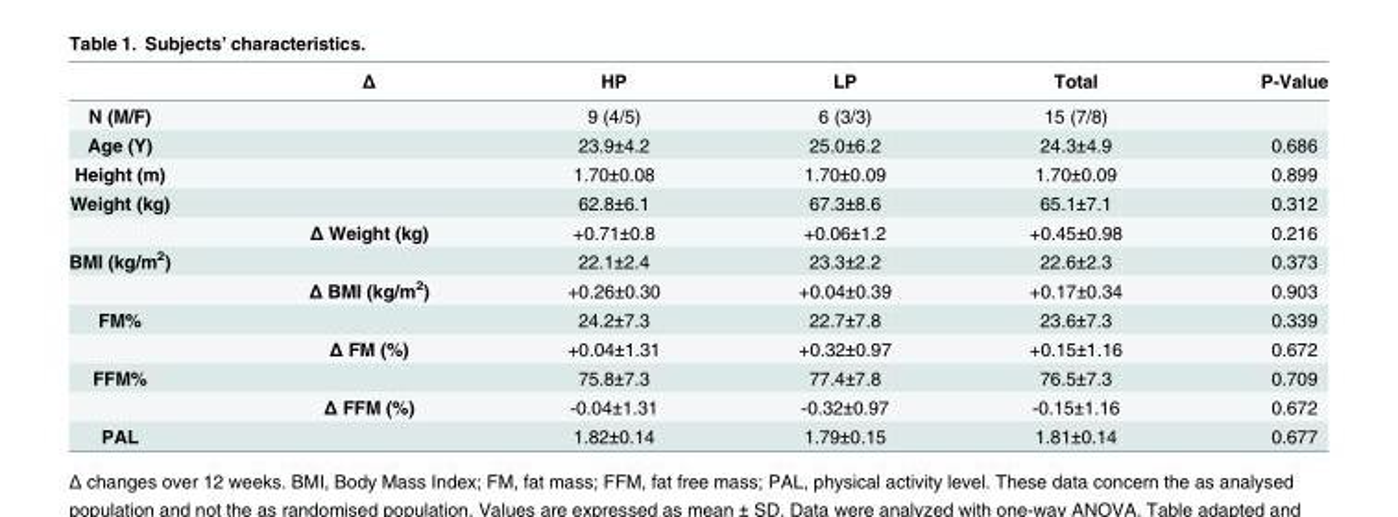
<table><thead><tr><td></td><td>Δ</td><td>HP</td><td>LP</td><td>Total</td><td>P-Value</td></tr></thead><tbody><tr><td>N (M/F)</td><td></td><td>9 (4/5)</td><td>6 (3/3)</td><td>15 (7/8)</td><td></td></tr><tr><td>Age (Y)</td><td></td><td>23.9±4.2</td><td>25.0±6.2</td><td>24.3±4.9</td><td>0.686</td></tr><tr><td>Height (m)</td><td></td><td>1.70±0.08</td><td>1.70±0.09</td><td>1.70±0.09</td><td>0.899</td></tr><tr><td rowspan="2">Weight (kg)</td><td></td><td>62.8±6.1</td><td>67.3±8.6</td><td>65.1±7.1</td><td>0.312</td></tr><tr><td>Δ Weight (kg)</td><td>+0.71±0.8</td><td>+0.06±1.2</td><td>+0.45±0.98</td><td>0.216</td></tr><tr><td rowspan="2">BMI (kg/m<sup>2</sup>)</td><td></td><td>22.1±2.4</td><td>23.3±2.2</td><td>22.6±2.3</td><td>0.373</td></tr><tr><td>Δ BMI (kg/m<sup>2</sup>)</td><td>+0.26±0.30</td><td>+0.04±0.39</td><td>+0.17±0.34</td><td>0.903</td></tr><tr><td rowspan="2">FM%</td><td></td><td>24.2±7.3</td><td>22.7±7.8</td><td>23.6±7.3</td><td>0.339</td></tr><tr><td>Δ FM (%)</td><td>+0.04±1.31</td><td>+0.32±0.97</td><td>+0.15±1.16</td><td>0.672</td></tr><tr><td rowspan="2">FFM%</td><td></td><td>75.8±7.3</td><td>77.4±7.8</td><td>76.5±7.3</td><td>0.709</td></tr><tr><td>Δ FFM (%)</td><td>-0.04±1.31</td><td>-0.32±0.97</td><td>-0.15±1.16</td><td>0.672</td></tr><tr><td>PAL</td><td></td><td>1.82±0.14</td><td>1.79±0.15</td><td>1.81±0.14</td><td>0.677</td></tr></tbody></table>